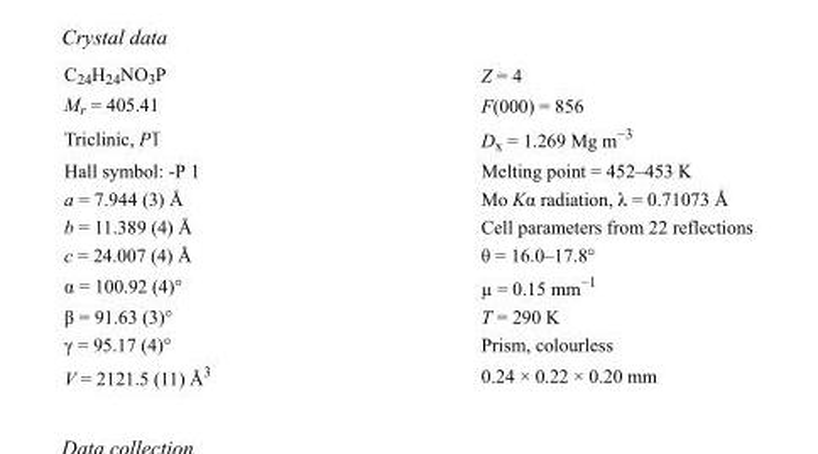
<table><tbody><tr><td>C<sub>24</sub>H<sub>24</sub>NO<sub>3</sub>P</td><td>Z = 4</td></tr><tr><td>M<sub>r</sub> = 405.41</td><td>F(000) = 856</td></tr><tr><td>Triclinic, P1</td><td>D<sub>x</sub> = 1.269 Mg m<sup>−3</sup></td></tr><tr><td>Hall symbol: -P 1</td><td>Melting point = 452–453 K</td></tr><tr><td>a = 7.944 (3) Å</td><td>Mo Kα radiation, λ = 0.71073 Å</td></tr><tr><td>b = 11.389 (4) Å</td><td>Cell parameters from 22 reflections</td></tr><tr><td>c = 24.007 (4) Å</td><td>θ = 16.0–17.8°</td></tr><tr><td>α = 100.92 (4)°</td><td>µ = 0.15 mm<sup>−1</sup></td></tr><tr><td>β = 91.63 (3)°</td><td>T = 290 K</td></tr><tr><td>γ = 95.17 (4)°</td><td>Prism, colourless</td></tr><tr><td>V = 2121.5 (11) Å<sup>3</sup></td><td>0.24 × 0.22 × 0.20 mm</td></tr></tbody></table>